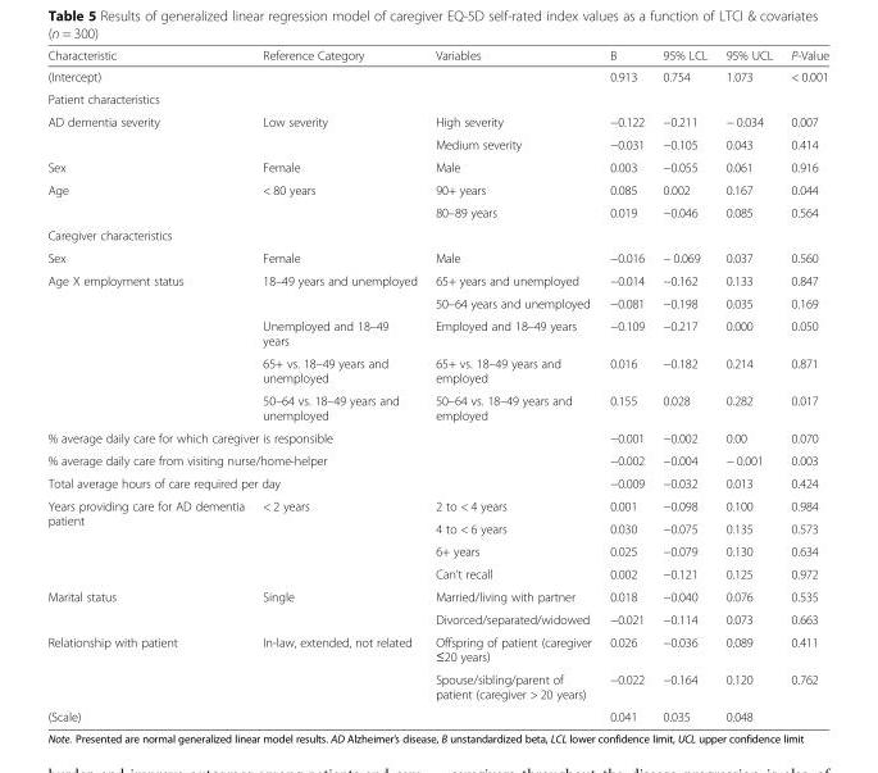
<table><thead><tr><td>Characteristic</td><td>Reference Category</td><td>Variables</td><td>B</td><td>95% LCL</td><td>95% UCL</td><td>P-Value</td></tr></thead><tbody><tr><td colspan="3">(Intercept)</td><td>0.913</td><td>0.754</td><td>1.073</td><td>&lt; 0.001</td></tr><tr><td colspan="7">Patient characteristics</td></tr><tr><td rowspan="2">AD dementia severity</td><td rowspan="2">Low severity</td><td>High severity</td><td>−0.122</td><td>−0.211</td><td>− 0.034</td><td>0.007</td></tr><tr><td>Medium severity</td><td>−0.031</td><td>−0.105</td><td>0.043</td><td>0.414</td></tr><tr><td>Sex</td><td>Female</td><td>Male</td><td>0.003</td><td>−0.055</td><td>0.061</td><td>0.916</td></tr><tr><td rowspan="2">Age</td><td rowspan="2">&lt; 80 years</td><td>90+ years</td><td>0.085</td><td>0.002</td><td>0.167</td><td>0.044</td></tr><tr><td>80–89 years</td><td>0.019</td><td>−0.046</td><td>0.085</td><td>0.564</td></tr><tr><td colspan="7">Caregiver characteristics</td></tr><tr><td>Sex</td><td>Female</td><td>Male</td><td>−0.016</td><td>− 0.069</td><td>0.037</td><td>0.560</td></tr><tr><td rowspan="5">Age X employment status</td><td rowspan="2">18–49 years and unemployed</td><td>65+ years and unemployed</td><td>−0.014</td><td>−0.162</td><td>0.133</td><td>0.847</td></tr><tr><td>50–64 years and unemployed</td><td>−0.081</td><td>−0.198</td><td>0.035</td><td>0.169</td></tr><tr><td>Unemployed and 18–49 years</td><td>Employed and 18–49 years</td><td>−0.109</td><td>−0.217</td><td>0.000</td><td>0.050</td></tr><tr><td>65+ vs. 18–49 years and unemployed</td><td>65+ vs. 18–49 years and employed</td><td>0.016</td><td>−0.182</td><td>0.214</td><td>0.871</td></tr><tr><td>50–64 vs. 18–49 years and unemployed</td><td>50–64 vs. 18–49 years and employed</td><td>0.155</td><td>0.028</td><td>0.282</td><td>0.017</td></tr><tr><td colspan="3">% average daily care for which caregiver is responsible</td><td>−0.001</td><td>−0.002</td><td>0.00</td><td>0.070</td></tr><tr><td colspan="3">% average daily care from visiting nurse/home-helper</td><td>−0.002</td><td>−0.004</td><td>− 0.001</td><td>0.003</td></tr><tr><td colspan="3">Total average hours of care required per day</td><td>−0.009</td><td>−0.032</td><td>0.013</td><td>0.424</td></tr><tr><td rowspan="4">Years providing care for AD dementia patient</td><td rowspan="4">&lt; 2 years</td><td>2 to &lt; 4 years</td><td>0.001</td><td>−0.098</td><td>0.100</td><td>0.984</td></tr><tr><td>4 to &lt; 6 years</td><td>0.030</td><td>−0.075</td><td>0.135</td><td>0.573</td></tr><tr><td>6+ years</td><td>0.025</td><td>−0.079</td><td>0.130</td><td>0.634</td></tr><tr><td>Can’t recall</td><td>0.002</td><td>−0.121</td><td>0.125</td><td>0.972</td></tr><tr><td rowspan="2">Marital status</td><td rowspan="2">Single</td><td>Married/living with partner</td><td>0.018</td><td>−0.040</td><td>0.076</td><td>0.535</td></tr><tr><td>Divorced/separated/widowed</td><td>−0.021</td><td>−0.114</td><td>0.073</td><td>0.663</td></tr><tr><td rowspan="2">Relationship with patient</td><td rowspan="2">In-law, extended, not related</td><td>Offspring of patient (caregiver ≤20 years)</td><td>0.026</td><td>−0.036</td><td>0.089</td><td>0.411</td></tr><tr><td>Spouse/sibling/parent of patient (caregiver &gt; 20 years)</td><td>−0.022</td><td>−0.164</td><td>0.120</td><td>0.762</td></tr><tr><td colspan="3">(Scale)</td><td>0.041</td><td>0.035</td><td>0.048</td><td></td></tr></tbody></table>